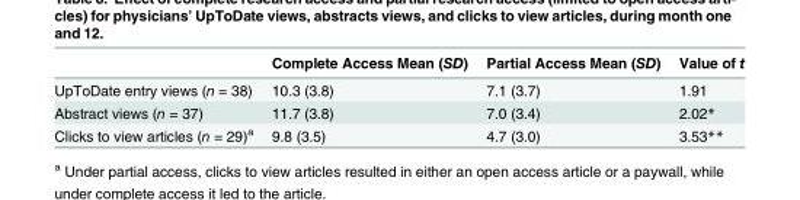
<table><thead><tr><td></td><td>Complete Access Mean (SD)</td><td>Partial Access Mean (SD)</td><td>Value of t</td></tr></thead><tbody><tr><td>UpToDate entry views (n = 38)</td><td>10.3 (3.8)</td><td>7.1 (3.7)</td><td>1.91</td></tr><tr><td>Abstract views (n = 37)</td><td>11.7 (3.8)</td><td>7.0 (3.4)</td><td>2.02*</td></tr><tr><td>Clicks to view articles (n = 29)<sup>a</sup></td><td>9.8 (3.5)</td><td>4.7 (3.0)</td><td>3.53**</td></tr></tbody></table>